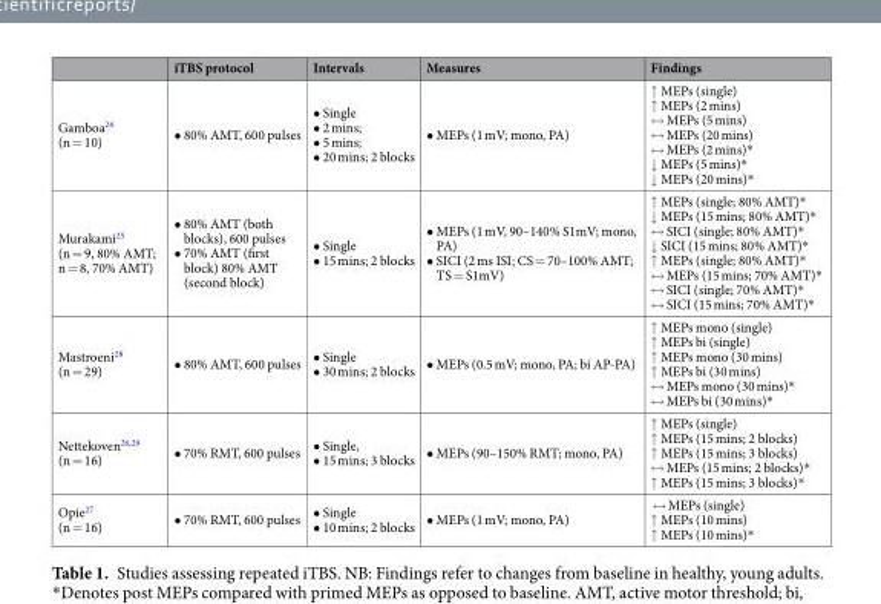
<table><thead><tr><td></td><td>iTBS protocol</td><td>Intervals</td><td>Measures</td><td>Findings</td></tr></thead><tbody><tr><td>Gamboa<sup>24</sup> (n = 10)</td><td>• 80% AMT, 600 pulses</td><td>• Single • 2 mins; • 5 mins; • 20 mins; 2 blocks</td><td>• MEPs (1 mV; mono, PA)</td><td>↑ MEPs (single) ↑ MEPs (2 mins) ↔ MEPs (5 mins) ↔ MEPs (20 mins) ↔ MEPs (2 mins)* ↓ MEPs (5 mins)* ↓ MEPs (20 mins)*</td></tr><tr><td>Murakami<sup>25</sup> (n = 9, 80% AMT; n = 8, 70% AMT)</td><td>• 80% AMT (both blocks), 600 pulses • 70% AMT (first block) 80% AMT (second block)</td><td>• Single • 15 mins; 2 blocks</td><td>• MEPs (1 mV, 90–140% S1mV; mono, PA) • SICI (2 ms ISI; CS = 70–100% AMT; TS = S1mV)</td><td>↑ MEPs (single; 80% AMT)* ↓ MEPs (15 mins; 80% AMT)* ↔ SICI (single; 80% AMT)* ↓ SICI (15 mins; 80% AMT)* ↑ MEPs (single; 80% AMT)* ↔ MEPs (15 mins; 70% AMT)* ↔ SICI (single; 70% AMT)* ↔ SICI (15 mins; 70% AMT)*</td></tr><tr><td>Mastroeni<sup>28</sup> (n = 29)</td><td>• 80% AMT, 600 pulses</td><td>• Single • 30 mins; 2 blocks</td><td>• MEPs (0.5 mV; mono, PA; bi AP-PA)</td><td>↑ MEPs mono (single) ↑ MEPs bi (single) ↑ MEPs mono (30 mins) ↑ MEPs bi (30 mins) ↔ MEPs mono (30 mins)* ↔ MEPs bi (30 mins)*</td></tr><tr><td>Nettekoven<sup>26,29</sup> (n = 16)</td><td>• 70% RMT, 600 pulses</td><td>• Single, • 15 mins; 3 blocks</td><td>• MEPs (90–150% RMT; mono, PA)</td><td>↑ MEPs (single) ↑ MEPs (15 mins; 2 blocks) ↑ MEPs (15 mins; 3 blocks) ↔ MEPs (15 mins; 2 blocks)* ↑ MEPs (15 mins; 3 blocks)*</td></tr><tr><td>Opie<sup>27</sup> (n = 16)</td><td>• 70% RMT, 600 pulses</td><td>• Single • 10 mins; 2 blocks</td><td>• MEPs (1 mV; mono, PA)</td><td>↔ MEPs (single) ↑ MEPs (10 mins) ↑ MEPs (10 mins)*</td></tr></tbody></table>